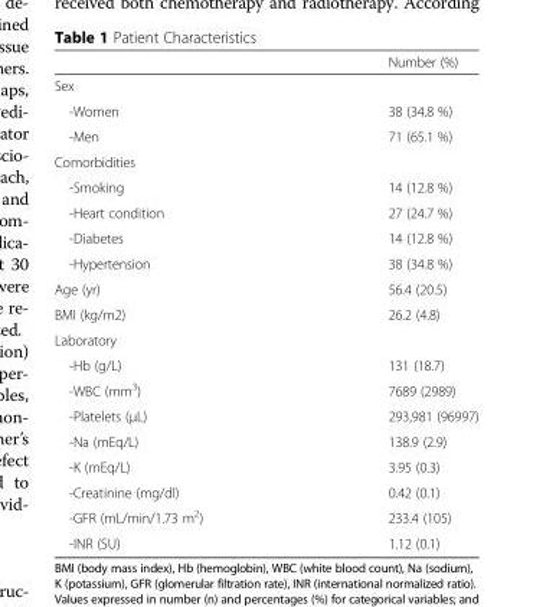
<table><thead><tr><td></td><td>Number (%)</td></tr></thead><tbody><tr><td colspan="2">Sex</td></tr><tr><td>-Women</td><td>38 (34.8 %)</td></tr><tr><td>-Men</td><td>71 (65.1 %)</td></tr><tr><td colspan="2">Comorbidities</td></tr><tr><td>-Smoking</td><td>14 (12.8 %)</td></tr><tr><td>-Heart condition</td><td>27 (24.7 %)</td></tr><tr><td>-Diabetes</td><td>14 (12.8 %)</td></tr><tr><td>-Hypertension</td><td>38 (34.8 %)</td></tr><tr><td>Age (yr)</td><td>56.4 (20.5)</td></tr><tr><td>BMI (kg/m2)</td><td>26.2 (4.8)</td></tr><tr><td colspan="2">Laboratory</td></tr><tr><td>-Hb (g/L)</td><td>131 (18.7)</td></tr><tr><td>-WBC (mm<sup>3</sup>)</td><td>7689 (2989)</td></tr><tr><td>-Platelets (μL)</td><td>293,981 (96997)</td></tr><tr><td>-Na (mEq/L)</td><td>138.9 (2.9)</td></tr><tr><td>-K (mEq/L)</td><td>3.95 (0.3)</td></tr><tr><td>-Creatinine (mg/dl)</td><td>0.42 (0.1)</td></tr><tr><td>-GFR (mL/min/1.73 m<sup>2</sup>)</td><td>233.4 (105)</td></tr><tr><td>-INR (SU)</td><td>1.12 (0.1)</td></tr></tbody></table>